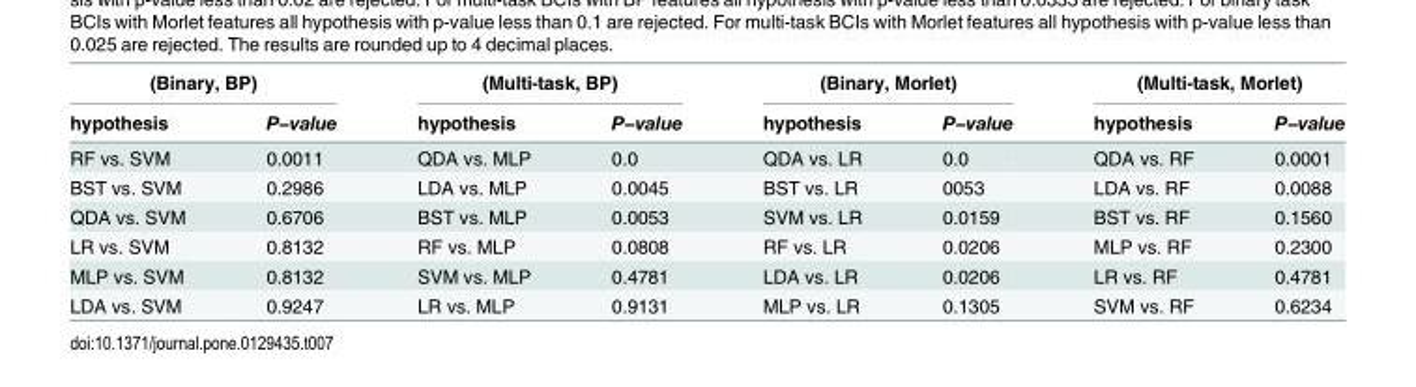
<table><thead><tr><td colspan="2">(Binary, BP)</td><td colspan="2">(Multi-task, BP)</td><td colspan="2">(Binary, Morlet)</td><td colspan="2">(Multi-task, Morlet)</td></tr><tr><td>hypothesis</td><td>P−value</td><td>hypothesis</td><td>P−value</td><td>hypothesis</td><td>P−value</td><td>hypothesis</td><td>P−value</td></tr></thead><tbody><tr><td>RF vs. SVM</td><td>0.0011</td><td>QDA vs. MLP</td><td>0.0</td><td>QDA vs. LR</td><td>0.0</td><td>QDA vs. RF</td><td>0.0001</td></tr><tr><td>BST vs. SVM</td><td>0.2986</td><td>LDA vs. MLP</td><td>0.0045</td><td>BST vs. LR</td><td>0053</td><td>LDA vs. RF</td><td>0.0088</td></tr><tr><td>QDA vs. SVM</td><td>0.6706</td><td>BST vs. MLP</td><td>0.0053</td><td>SVM vs. LR</td><td>0.0159</td><td>BST vs. RF</td><td>0.1560</td></tr><tr><td>LR vs. SVM</td><td>0.8132</td><td>RF vs. MLP</td><td>0.0808</td><td>RF vs. LR</td><td>0.0206</td><td>MLP vs. RF</td><td>0.2300</td></tr><tr><td>MLP vs. SVM</td><td>0.8132</td><td>SVM vs. MLP</td><td>0.4781</td><td>LDA vs. LR</td><td>0.0206</td><td>LR vs. RF</td><td>0.4781</td></tr><tr><td>LDA vs. SVM</td><td>0.9247</td><td>LR vs. MLP</td><td>0.9131</td><td>MLP vs. LR</td><td>0.1305</td><td>SVM vs. RF</td><td>0.6234</td></tr></tbody></table>